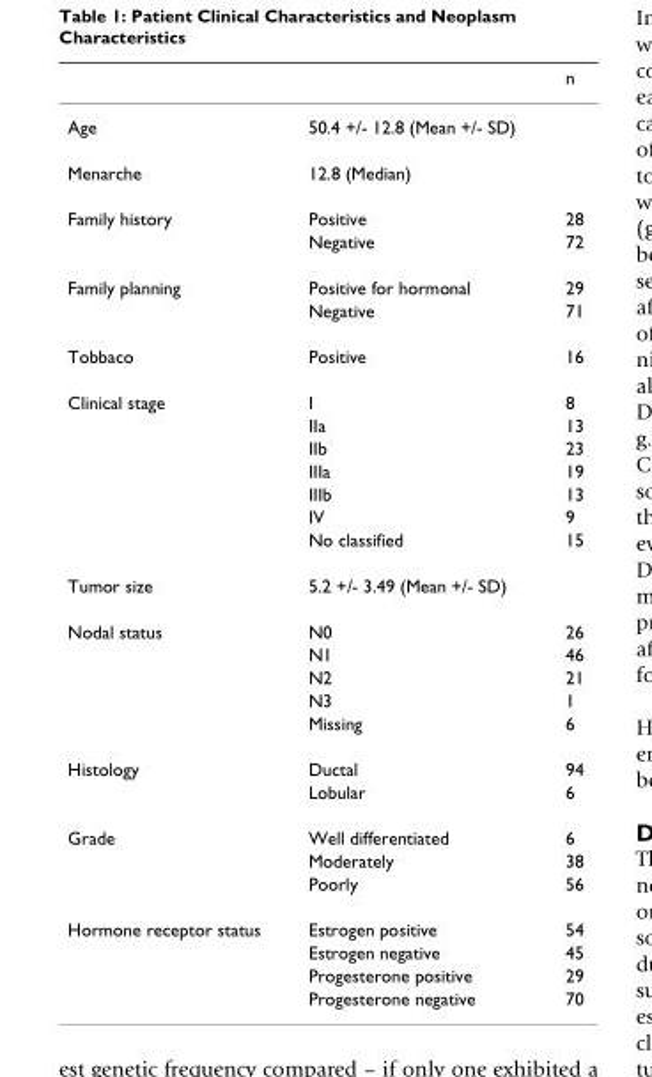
<table><thead><tr><td></td><td></td><td>n</td></tr></thead><tbody><tr><td>Age</td><td>50.4 +/- 12.8 (Mean +/- SD)</td><td></td></tr><tr><td>Menarche</td><td>12.8 (Median)</td><td></td></tr><tr><td rowspan="2">Family history</td><td>Positive</td><td>28</td></tr><tr><td>Negative</td><td>72</td></tr><tr><td rowspan="2">Family planning</td><td>Positive for hormonal</td><td>29</td></tr><tr><td>Negative</td><td>71</td></tr><tr><td>Tobbaco</td><td>Positive</td><td>16</td></tr><tr><td rowspan="7">Clinical stage</td><td>I</td><td>8</td></tr><tr><td>IIa</td><td>13</td></tr><tr><td>IIb</td><td>23</td></tr><tr><td>IIIa</td><td>19</td></tr><tr><td>IIIb</td><td>13</td></tr><tr><td>IV</td><td>9</td></tr><tr><td>No classified</td><td>15</td></tr><tr><td>Tumor size</td><td>5.2 +/- 3.49 (Mean +/- SD)</td><td></td></tr><tr><td rowspan="5">Nodal status</td><td>N0</td><td>26</td></tr><tr><td>N1</td><td>46</td></tr><tr><td>N2</td><td>21</td></tr><tr><td>N3</td><td>1</td></tr><tr><td>Missing</td><td>6</td></tr><tr><td rowspan="2">Histology</td><td>Ductal</td><td>94</td></tr><tr><td>Lobular</td><td>6</td></tr><tr><td rowspan="3">Grade</td><td>Well differentiated</td><td>6</td></tr><tr><td>Moderately</td><td>38</td></tr><tr><td>Poorly</td><td>56</td></tr><tr><td rowspan="4">Hormone receptor status</td><td>Estrogen positive</td><td>54</td></tr><tr><td>Estrogen negative</td><td>45</td></tr><tr><td>Progesterone positive</td><td>29</td></tr><tr><td>Progesterone negative</td><td>70</td></tr></tbody></table>